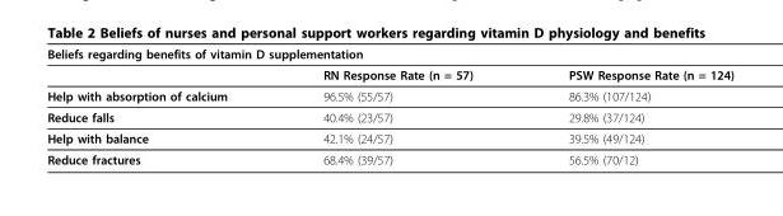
<table><thead><tr><td colspan="3">Beliefs regarding benefits of vitamin D supplementation</td></tr><tr><td></td><td>RN Response Rate (n = 57)</td><td>PSW Response Rate (n = 124)</td></tr></thead><tbody><tr><td>Help with absorption of calcium</td><td>96.5% (55/57)</td><td>86.3% (107/124)</td></tr><tr><td>Reduce falls</td><td>40.4% (23/57)</td><td>29.8% (37/124)</td></tr><tr><td>Help with balance</td><td>42.1% (24/57)</td><td>39.5% (49/124)</td></tr><tr><td>Reduce fractures</td><td>68.4% (39/57)</td><td>56.5% (70/12)</td></tr></tbody></table>